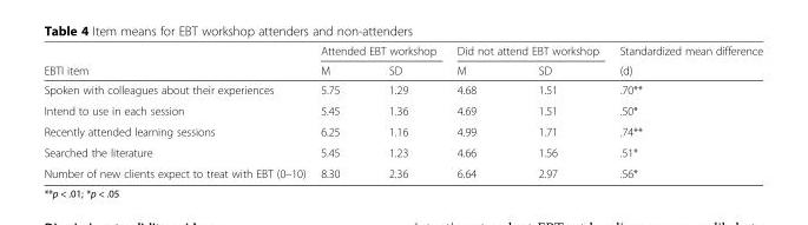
<table><thead><tr><td rowspan="2">EBTI item</td><td colspan="2">Attended EBT workshop</td><td colspan="2">Did not attend EBT workshop</td><td rowspan="2">Standardized mean difference (d)</td></tr><tr><td>M</td><td>SD</td><td>M</td><td>SD</td></tr></thead><tbody><tr><td>Spoken with colleagues about their experiences</td><td>5.75</td><td>1.29</td><td>4.68</td><td>1.51</td><td>.70**</td></tr><tr><td>Intend to use in each session</td><td>5.45</td><td>1.36</td><td>4.69</td><td>1.51</td><td>.50*</td></tr><tr><td>Recently attended learning sessions</td><td>6.25</td><td>1.16</td><td>4.99</td><td>1.71</td><td>.74**</td></tr><tr><td>Searched the literature</td><td>5.45</td><td>1.23</td><td>4.66</td><td>1.56</td><td>.51*</td></tr><tr><td>Number of new clients expect to treat with EBT (0–10)</td><td>8.30</td><td>2.36</td><td>6.64</td><td>2.97</td><td>.56*</td></tr></tbody></table>